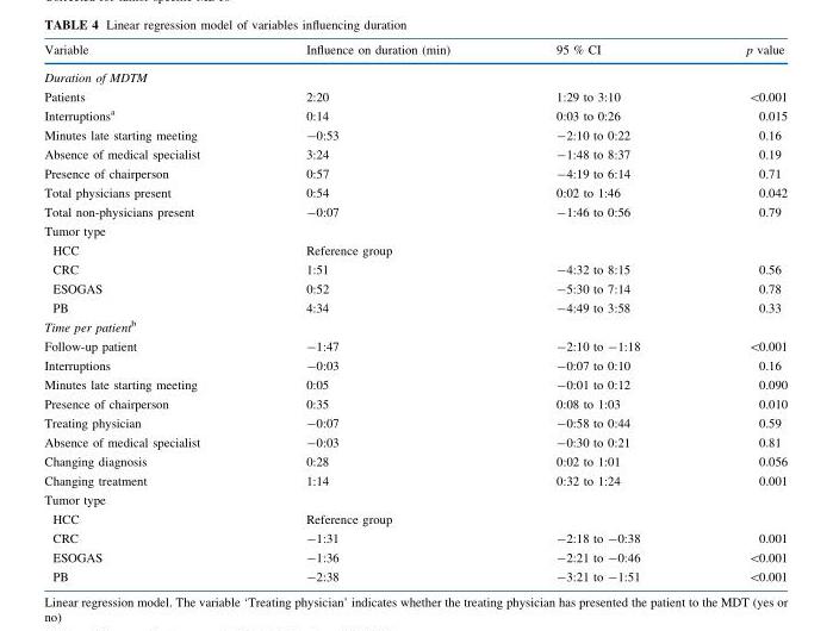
<table><thead><tr><td>Variable</td><td>Influence on duration (min)</td><td>95 % CI</td><td>p value</td></tr></thead><tbody><tr><td colspan="4">Duration of MDTM</td></tr><tr><td>Patients</td><td>2:20</td><td>1:29 to 3:10</td><td>&lt;0.001</td></tr><tr><td>Interruptions<sup>a</sup></td><td>0:14</td><td>0:03 to 0:26</td><td>0.015</td></tr><tr><td>Minutes late starting meeting</td><td>-0:53</td><td>-2:10 to 0:22</td><td>0.16</td></tr><tr><td>Absence of medical specialist</td><td>3:24</td><td>-1:48 to 8:37</td><td>0.19</td></tr><tr><td>Presence of chairperson</td><td>0:57</td><td>-4:19 to 6:14</td><td>0.71</td></tr><tr><td>Total physicians present</td><td>0:54</td><td>0:02 to 1:46</td><td>0.042</td></tr><tr><td>Total non-physicians present</td><td>-0:07</td><td>-1:46 to 0:56</td><td>0.79</td></tr><tr><td colspan="4">Tumor type</td></tr><tr><td>HCC</td><td>Reference group</td><td></td><td></td></tr><tr><td>CRC</td><td>1:51</td><td>-4:32 to 8:15</td><td>0.56</td></tr><tr><td>ESOGAS</td><td>0:52</td><td>-5:30 to 7:14</td><td>0.78</td></tr><tr><td>PB</td><td>4:34</td><td>-4:49 to 3:58</td><td>0.33</td></tr><tr><td colspan="4">Time per patient<sup>b</sup></td></tr><tr><td>Follow-up patient</td><td>-1:47</td><td>-2:10 to -1:18</td><td>&lt;0.001</td></tr><tr><td>Interruptions</td><td>-0:03</td><td>-0:07 to 0:10</td><td>0.16</td></tr><tr><td>Minutes late starting meeting</td><td>0:05</td><td>-0:01 to 0:12</td><td>0.090</td></tr><tr><td>Presence of chairperson</td><td>0:35</td><td>0:08 to 1:03</td><td>0.010</td></tr><tr><td>Treating physician</td><td>-0:07</td><td>-0:58 to 0:44</td><td>0.59</td></tr><tr><td>Absence of medical specialist</td><td>-0:03</td><td>-0:30 to 0:21</td><td>0.81</td></tr><tr><td>Changing diagnosis</td><td>0:28</td><td>0:02 to 1:01</td><td>0.056</td></tr><tr><td>Changing treatment</td><td>1:14</td><td>0:32 to 1:24</td><td>0.001</td></tr><tr><td colspan="4">Tumor type</td></tr><tr><td>HCC</td><td>Reference group</td><td></td><td></td></tr><tr><td>CRC</td><td>-1:31</td><td>-2:18 to -0:38</td><td>0.001</td></tr><tr><td>ESOGAS</td><td>-1:36</td><td>-2:21 to -0:46</td><td>&lt;0.001</td></tr><tr><td>PB</td><td>-2:38</td><td>-3:21 to -1:51</td><td>&lt;0.001</td></tr></tbody></table>